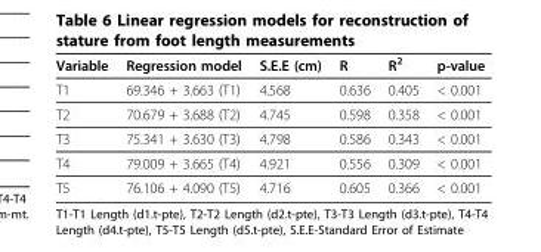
<table><thead><tr><td>Variable</td><td>Regression model</td><td>S.E.E (cm)</td><td>R</td><td>R<sup>2</sup></td><td>p-value</td></tr></thead><tbody><tr><td>T1</td><td>69.346 + 3.663 (T1)</td><td>4.568</td><td>0.636</td><td>0.405</td><td>&lt; 0.001</td></tr><tr><td>T2</td><td>70.679 + 3.688 (T2)</td><td>4.745</td><td>0.598</td><td>0.358</td><td>&lt; 0.001</td></tr><tr><td>T3</td><td>75.341 + 3.630 (T3)</td><td>4.798</td><td>0.586</td><td>0.343</td><td>&lt; 0.001</td></tr><tr><td>T4</td><td>79.009 + 3.665 (T4)</td><td>4.921</td><td>0.556</td><td>0.309</td><td>&lt; 0.001</td></tr><tr><td>T5</td><td>76.106 + 4.090 (T5)</td><td>4.716</td><td>0.605</td><td>0.366</td><td>&lt; 0.001</td></tr></tbody></table>